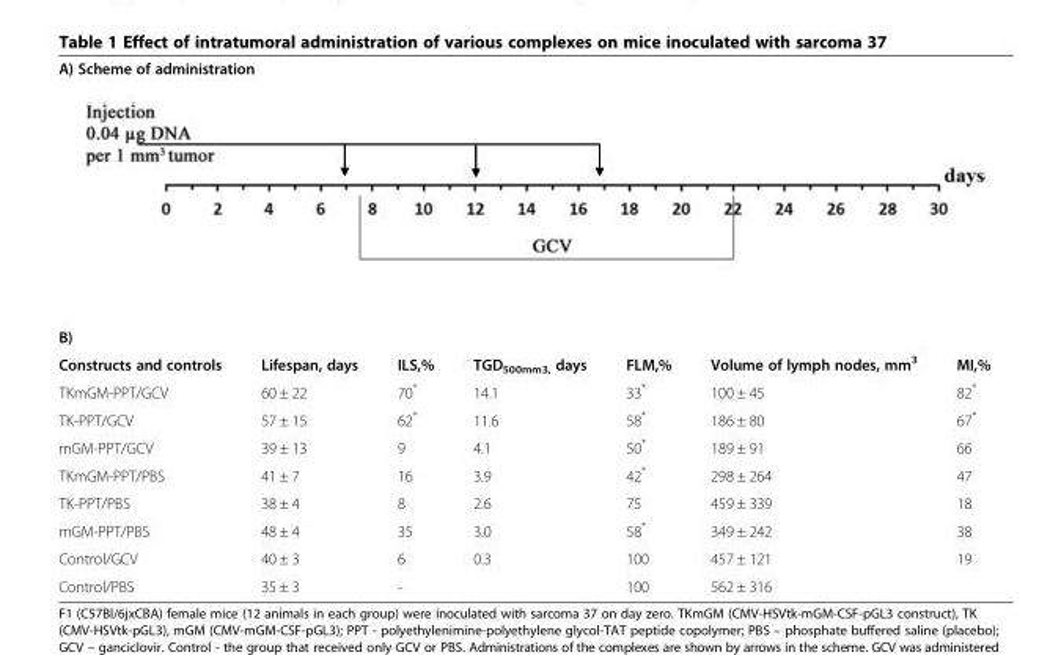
<table><tbody><tr><td colspan="7">A) Scheme of administration</td></tr><tr><td colspan="7">B)</td></tr><tr><td>Constructs and controls</td><td>Lifespan, days</td><td>ILS,%</td><td>TGD<sub>500mm3,</sub> days</td><td>FLM,%</td><td>Volume of lymph nodes, mm<sup>3</sup></td><td>MI,%</td></tr><tr><td>TKmGM-PPT/GCV</td><td>60 ± 22</td><td>70*</td><td>14.1</td><td>33*</td><td>100 ± 45</td><td>82*</td></tr><tr><td>TK-PPT/GCV</td><td>57 ± 15</td><td>62*</td><td>11.6</td><td>58*</td><td>186 ± 80</td><td>67*</td></tr><tr><td>mGM-PPT/GCV</td><td>39 ± 13</td><td>9</td><td>4.1</td><td>50*</td><td>189 ± 91</td><td>66</td></tr><tr><td>TKmGM-PPT/PBS</td><td>41 ± 7</td><td>16</td><td>3.9</td><td>42*</td><td>298 ± 264</td><td>47</td></tr><tr><td>TK-PPT/PBS</td><td>38 ± 4</td><td>8</td><td>2.6</td><td>75</td><td>459 ± 339</td><td>18</td></tr><tr><td>mGM-PPT/PBS</td><td>48 ± 4</td><td>35</td><td>3.0</td><td>58*</td><td>349 ± 242</td><td>38</td></tr><tr><td>Control/GCV</td><td>40 ± 3</td><td>6</td><td>0.3</td><td>100</td><td>457 ± 121</td><td>19</td></tr><tr><td>Control/PBS</td><td>35 ± 3</td><td>-</td><td></td><td>100</td><td>562 ± 316</td><td></td></tr></tbody></table>